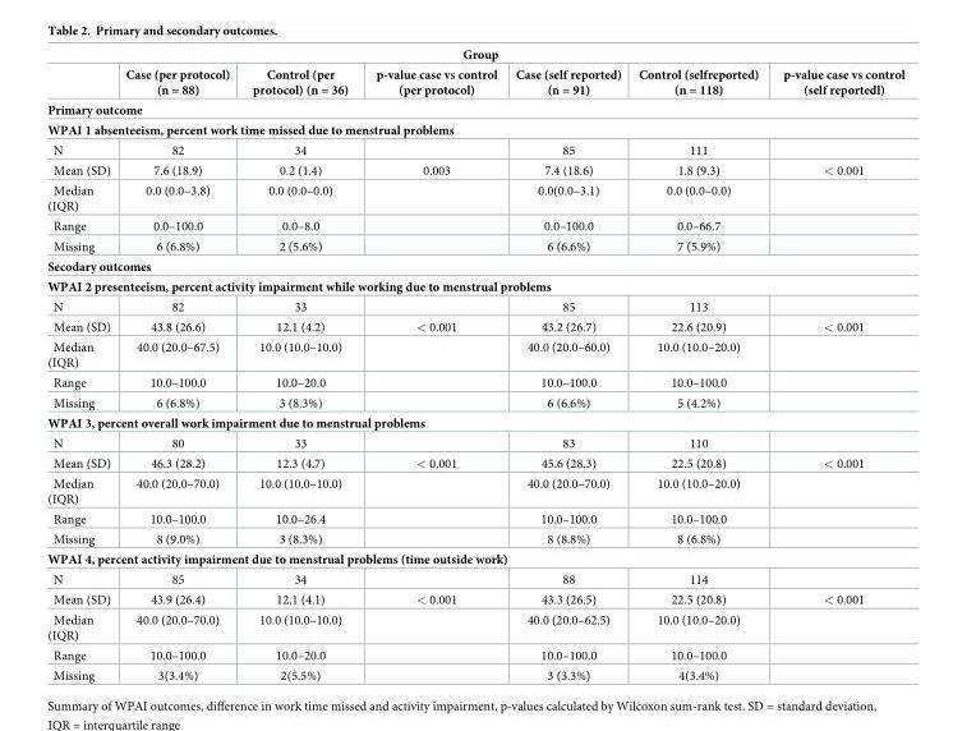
<table><thead><tr><td colspan="7">Group</td></tr><tr><td></td><td>Case (per protocol) (n = 88)</td><td>Control (per protocol) (n = 36)</td><td>p-value case vs control (per protocol)</td><td>Case (self reported) (n = 91)</td><td>Control (selfreported) (n = 118)</td><td>p-value case vs control (self reportedl)</td></tr></thead><tbody><tr><td colspan="7">Primary outcome</td></tr><tr><td colspan="7">WPAI 1 absenteeism, percent work time missed due to menstrual problems</td></tr><tr><td>N</td><td>82</td><td>34</td><td></td><td>85</td><td>111</td><td></td></tr><tr><td>Mean (SD)</td><td>7.6 (18.9)</td><td>0.2 (1.4)</td><td>0.003</td><td>7.4 (18.6)</td><td>1.8 (9.3)</td><td>&lt; 0.001</td></tr><tr><td>Median (IQR)</td><td>0.0 (0.0–3.8)</td><td>0.0 (0.0–0.0)</td><td></td><td>0.0(0.0–3.1)</td><td>0.0 (0.0–0.0)</td><td></td></tr><tr><td>Range</td><td>0.0–100.0</td><td>0.0–8.0</td><td></td><td>0.0–100.0</td><td>0.0–66.7</td><td></td></tr><tr><td>Missing</td><td>6 (6.8%)</td><td>2 (5.6%)</td><td></td><td>6 (6.6%)</td><td>7 (5.9%)</td><td></td></tr><tr><td colspan="7">Secodary outcomes</td></tr><tr><td colspan="7">WPAI 2 presenteeism, percent activity impairment while working due to menstrual problems</td></tr><tr><td>N</td><td>82</td><td>33</td><td></td><td>85</td><td>113</td><td></td></tr><tr><td>Mean (SD)</td><td>43.8 (26.6)</td><td>12.1 (4.2)</td><td>&lt; 0.001</td><td>43.2 (26.7)</td><td>22.6 (20.9)</td><td>&lt; 0.001</td></tr><tr><td>Median (IQR)</td><td>40.0 (20.0–67.5)</td><td>10.0 (10.0–10.0)</td><td></td><td>40.0 (20.0–60.0)</td><td>10.0 (10.0–20.0)</td><td></td></tr><tr><td>Range</td><td>10.0–100.0</td><td>10.0–20.0</td><td></td><td>10.0–100.0</td><td>10.0–100.0</td><td></td></tr><tr><td>Missing</td><td>6 (6.8%)</td><td>3 (8.3%)</td><td></td><td>6 (6.6%)</td><td>5 (4.2%)</td><td></td></tr><tr><td colspan="7">WPAI 3, percent overall work impairment due to menstrual problems</td></tr><tr><td>N</td><td>80</td><td>33</td><td></td><td>83</td><td>110</td><td></td></tr><tr><td>Mean (SD)</td><td>46.3 (28.2)</td><td>12.3 (4.7)</td><td>&lt; 0.001</td><td>45.6 (28.3)</td><td>22.5 (20.8)</td><td>&lt; 0.001</td></tr><tr><td>Median (IQR)</td><td>40.0 (20.0–70.0)</td><td>10.0 (10.0–10.0)</td><td></td><td>40.0 (20.0–70.0)</td><td>10.0 (10.0–20.0)</td><td></td></tr><tr><td>Range</td><td>10.0–100.0</td><td>10.0–26.4</td><td></td><td>10.0–100.0</td><td>10.0–100.0</td><td></td></tr><tr><td>Missing</td><td>8 (9.0%)</td><td>3 (8.3%)</td><td></td><td>8 (8.8%)</td><td>8 (6.8%)</td><td></td></tr><tr><td colspan="7">WPAI 4, percent activity impairment due to menstrual problems (time outside work)</td></tr><tr><td>N</td><td>85</td><td>34</td><td></td><td>88</td><td>114</td><td></td></tr><tr><td>Mean (SD)</td><td>43.9 (26.4)</td><td>12.1 (4.1)</td><td>&lt; 0.001</td><td>43.3 (26.5)</td><td>22.5 (20.8)</td><td>&lt; 0.001</td></tr><tr><td>Median (IQR)</td><td>40.0 (20.0–70.0)</td><td>10.0 (10.0–10.0)</td><td></td><td>40.0 (20.0–62.5)</td><td>10.0 (10.0–20.0)</td><td></td></tr><tr><td>Range</td><td>10.0–100.0</td><td>10.0–20.0</td><td></td><td>10.0–100.0</td><td>10.0–100.0</td><td></td></tr><tr><td>Missing</td><td>3(3.4%)</td><td>2(5.5%)</td><td></td><td>3 (3.3%)</td><td>4(3.4%)</td><td></td></tr></tbody></table>